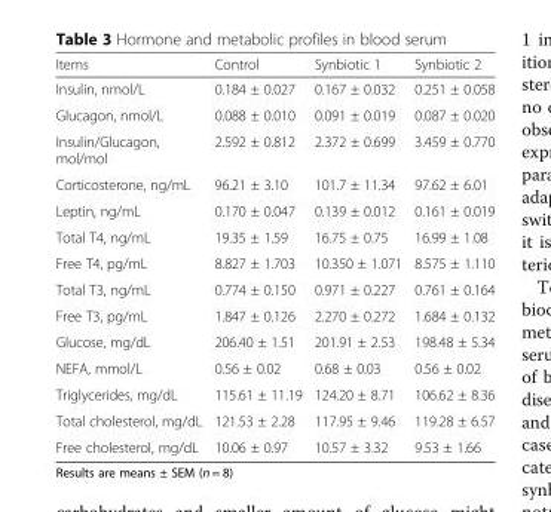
<table><thead><tr><td>Items</td><td>Control</td><td>Synbiotic 1</td><td>Synbiotic 2</td></tr></thead><tbody><tr><td>Insulin, nmol/L</td><td>0.184 ± 0.027</td><td>0.167 ± 0.032</td><td>0.251 ± 0.058</td></tr><tr><td>Glucagon, nmol/L</td><td>0.088 ± 0.010</td><td>0.091 ± 0.019</td><td>0.087 ± 0.020</td></tr><tr><td>Insulin/Glucagon, mol/mol</td><td>2.592 ± 0.812</td><td>2.372 ± 0.699</td><td>3.459 ± 0.770</td></tr><tr><td>Corticosterone, ng/mL</td><td>96.21 ± 3.10</td><td>101.7 ± 11.34</td><td>97.62 ± 6.01</td></tr><tr><td>Leptin, ng/mL</td><td>0.170 ± 0.047</td><td>0.139 ± 0.012</td><td>0.161 ± 0.019</td></tr><tr><td>Total T4, ng/mL</td><td>19.35 ± 1.59</td><td>16.75 ± 0.75</td><td>16.99 ± 1.08</td></tr><tr><td>Free T4, pg/mL</td><td>8.827 ± 1.703</td><td>10.350 ± 1.071</td><td>8.575 ± 1.110</td></tr><tr><td>Total T3, ng/mL</td><td>0.774 ± 0.150</td><td>0.971 ± 0.227</td><td>0.761 ± 0.164</td></tr><tr><td>Free T3, pg/mL</td><td>1.847 ± 0.126</td><td>2.270 ± 0.272</td><td>1.684 ± 0.132</td></tr><tr><td>Glucose, mg/dL</td><td>206.40 ± 1.51</td><td>201.91 ± 2.53</td><td>198.48 ± 5.34</td></tr><tr><td>NEFA, mmol/L</td><td>0.56 ± 0.02</td><td>0.68 ± 0.03</td><td>0.56 ± 0.02</td></tr><tr><td>Triglycerides, mg/dL</td><td>115.61 ± 11.19</td><td>124.20 ± 8.71</td><td>106.62 ± 8.36</td></tr><tr><td>Total cholesterol, mg/dL</td><td>121.53 ± 2.28</td><td>117.95 ± 9.46</td><td>119.28 ± 6.57</td></tr><tr><td>Free cholesterol, mg/dL</td><td>10.06 ± 0.97</td><td>10.57 ± 3.32</td><td>9.53 ± 1.66</td></tr></tbody></table>